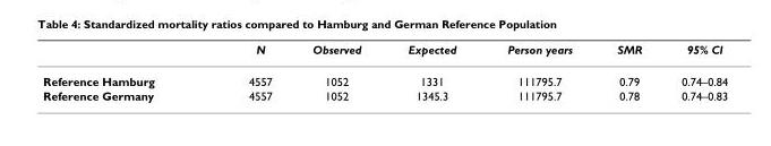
<table><thead><tr><td></td><td>N</td><td>Observed</td><td>Expected</td><td>Person years</td><td>SMR</td><td>95% CI</td></tr></thead><tbody><tr><td>Reference Hamburg</td><td>4557</td><td>1052</td><td>1331</td><td>111795.7</td><td>0.79</td><td>0.74–0.84</td></tr><tr><td>Reference Germany</td><td>4557</td><td>1052</td><td>1345.3</td><td>111795.7</td><td>0.78</td><td>0.74–0.83</td></tr></tbody></table>